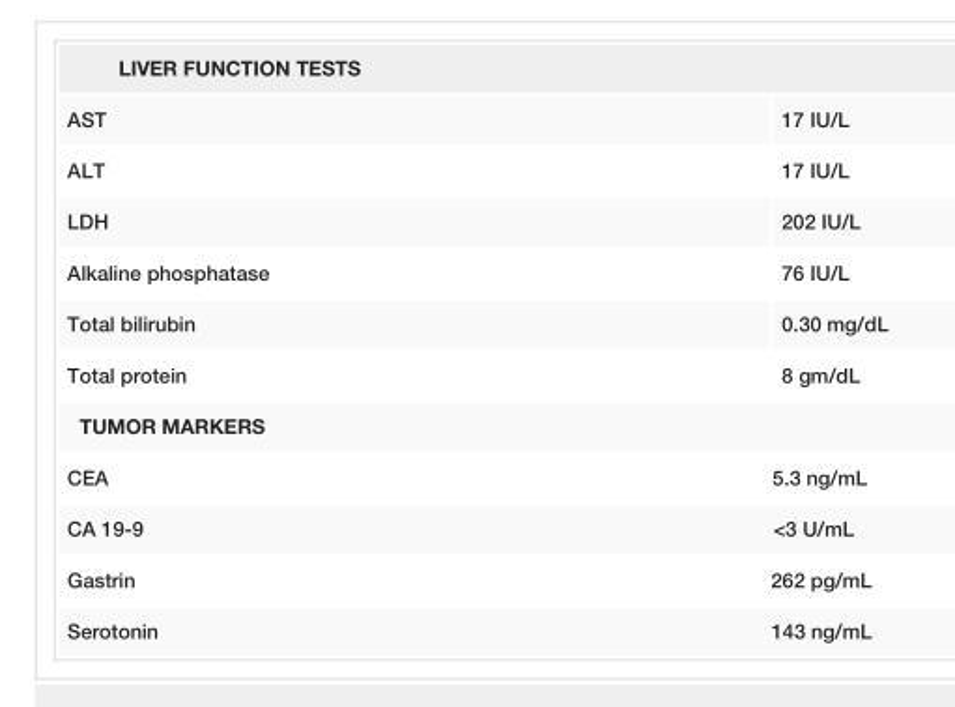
<table><tbody><tr><td colspan="2">LIVER FUNCTION TESTS</td></tr><tr><td>AST</td><td>17 IU/L</td></tr><tr><td>ALT</td><td>17 IU/L</td></tr><tr><td>LDH</td><td>202 IU/L</td></tr><tr><td>Alkaline phosphatase</td><td>76 IU/L</td></tr><tr><td>Total bilirubin</td><td>0.30 mg/dL</td></tr><tr><td>Total protein</td><td>8 gm/dL</td></tr><tr><td colspan="2">TUMOR MARKERS</td></tr><tr><td colspan="2">CEA 5.3 ng/mL</td></tr><tr><td colspan="2">CA 19-9 &lt;3 U/mL</td></tr><tr><td colspan="2">Gastrin 262 pg/mL</td></tr><tr><td colspan="2">Serotonin 143 ng/mL</td></tr></tbody></table>